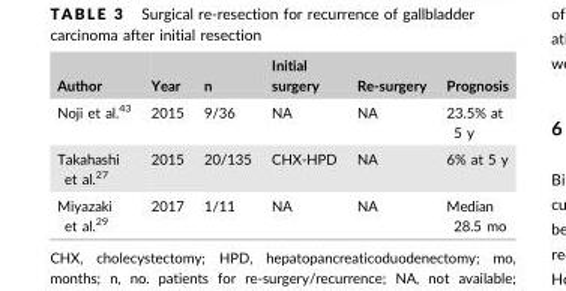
<table><thead><tr><td>Author</td><td>Year</td><td>n</td><td>Initial surgery</td><td>Re-surgery</td><td>Prognosis</td></tr></thead><tbody><tr><td>Noji et al.<sup>43</sup></td><td>2015</td><td>9/36</td><td>NA</td><td>NA</td><td>23.5% at 5 y</td></tr><tr><td>Takahashi et al.<sup>27</sup></td><td>2015</td><td>20/135</td><td>CHX-HPD</td><td>NA</td><td>6% at 5 y</td></tr><tr><td>Miyazaki et al.<sup>29</sup></td><td>2017</td><td>1/11</td><td>NA</td><td>NA</td><td>Median 28.5 mo</td></tr></tbody></table>